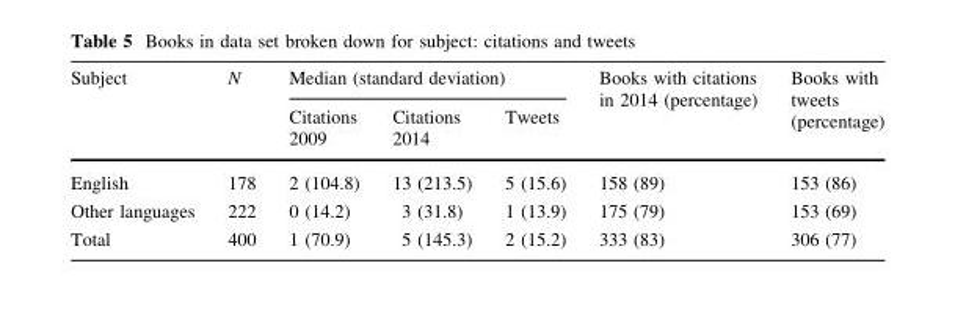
<table><thead><tr><td rowspan="2">Subject</td><td rowspan="2">N</td><td colspan="3">Median (standard deviation)</td><td rowspan="2">Books with citations in 2014 (percentage)</td><td rowspan="2">Books with tweets (percentage)</td></tr><tr><td>Citations 2009</td><td>Citations 2014</td><td>Tweets</td></tr></thead><tbody><tr><td>English</td><td>178</td><td>2 (104.8)</td><td>13 (213.5)</td><td>5 (15.6)</td><td>158 (89)</td><td>153 (86)</td></tr><tr><td>Other languages</td><td>222</td><td>0 (14.2)</td><td>3 (31.8)</td><td>1 (13.9)</td><td>175 (79)</td><td>153 (69)</td></tr><tr><td>Total</td><td>400</td><td>1 (70.9)</td><td>5 (145.3)</td><td>2 (15.2)</td><td>333 (83)</td><td>306 (77)</td></tr></tbody></table>